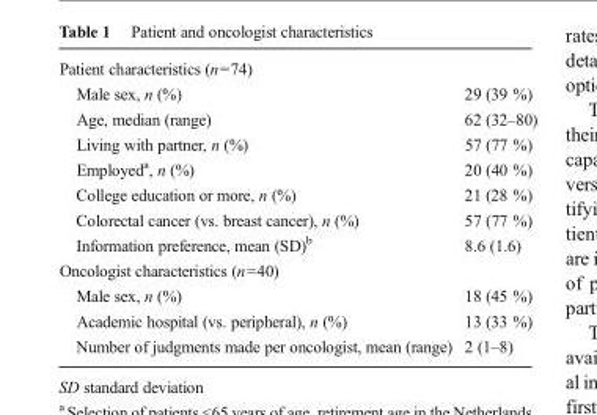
<table><tbody><tr><td colspan="2">Patient characteristics (n=74)</td></tr><tr><td>Male sex, n (%)</td><td>29 (39 %)</td></tr><tr><td>Age, median (range)</td><td>62 (32–80)</td></tr><tr><td>Living with partner, n (%)</td><td>57 (77 %)</td></tr><tr><td>Employed<sup>a</sup>, n (%)</td><td>20 (40 %)</td></tr><tr><td>College education or more, n (%)</td><td>21 (28 %)</td></tr><tr><td>Colorectal cancer (vs. breast cancer), n (%)</td><td>57 (77 %)</td></tr><tr><td>Information preference, mean (SD)<sup>b</sup></td><td>8.6 (1.6)</td></tr><tr><td colspan="2">Oncologist characteristics (n=40)</td></tr><tr><td>Male sex, n (%)</td><td>18 (45 %)</td></tr><tr><td>Academic hospital (vs. peripheral), n (%)</td><td>13 (33 %)</td></tr><tr><td>Number of judgments made per oncologist, mean (range)</td><td>2 (1–8)</td></tr></tbody></table>